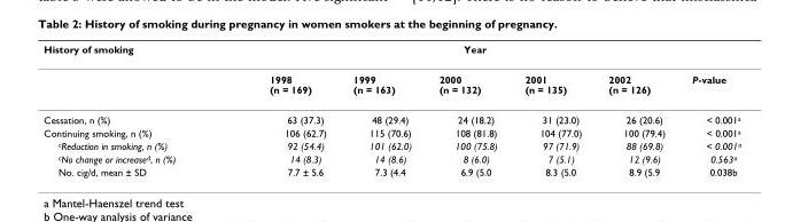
<table><thead><tr><td rowspan="2">History of smoking</td><td colspan="5">Year</td><td rowspan="2">P-value</td></tr><tr><td>1998 (n = 169)</td><td>1999 (n = 163)</td><td>2000 (n = 132)</td><td>2001 (n = 135)</td><td>2002 (n = 126)</td></tr></thead><tbody><tr><td>Cessation, n (%)</td><td>63 (37.3)</td><td>48 (29.4)</td><td>24 (18.2)</td><td>31 (23.0)</td><td>26 (20.6)</td><td>&lt; 0.001<sup>a</sup></td></tr><tr><td>Continuing smoking, n (%)</td><td>106 (62.7)</td><td>115 (70.6)</td><td>108 (81.8)</td><td>104 (77.0)</td><td>100 (79.4)</td><td>&lt; 0.001<sup>a</sup></td></tr><tr><td><sup>c</sup>Reduction in smoking, n (%)</td><td>92 (54.4)</td><td>101 (62.0)</td><td>100 (75.8)</td><td>97 (71.9)</td><td>88 (69.8)</td><td>&lt; 0.001<sup>a</sup></td></tr><tr><td><sup>c</sup>No change or increase<sup>d</sup>, n (%)</td><td>14 (8.3)</td><td>14 (8.6)</td><td>8 (6.0)</td><td>7 (5.1)</td><td>12 (9.6)</td><td>0.563<sup>a</sup></td></tr><tr><td>No. cig/d, mean ± SD</td><td>7.7 ± 5.6</td><td>7.3 (4.4</td><td>6.9 (5.0</td><td>8.3 (5.0</td><td>8.9 (5.9</td><td>0.038b</td></tr></tbody></table>